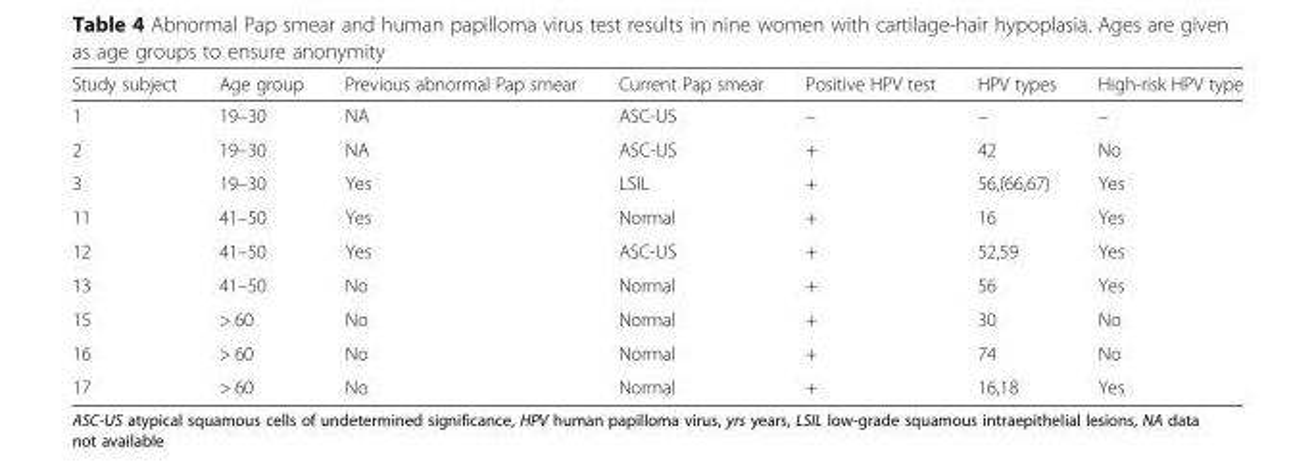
<table><thead><tr><td>Study subject</td><td>Age group</td><td>Previous abnormal Pap smear</td><td>Current Pap smear</td><td>Positive HPV test</td><td>HPV types</td><td>High-risk HPV type</td></tr></thead><tbody><tr><td>1</td><td>19–30</td><td>NA</td><td>ASC-US</td><td>–</td><td>–</td><td>–</td></tr><tr><td>2</td><td>19–30</td><td>NA</td><td>ASC-US</td><td>+</td><td>42</td><td>No</td></tr><tr><td>3</td><td>19–30</td><td>Yes</td><td>LSIL</td><td>+</td><td>56,(66,67)</td><td>Yes</td></tr><tr><td>11</td><td>41–50</td><td>Yes</td><td>Normal</td><td>+</td><td>16</td><td>Yes</td></tr><tr><td>12</td><td>41–50</td><td>Yes</td><td>ASC-US</td><td>+</td><td>52,59</td><td>Yes</td></tr><tr><td>13</td><td>41–50</td><td>No</td><td>Normal</td><td>+</td><td>56</td><td>Yes</td></tr><tr><td>15</td><td>&gt; 60</td><td>No</td><td>Normal</td><td>+</td><td>30</td><td>No</td></tr><tr><td>16</td><td>&gt; 60</td><td>No</td><td>Normal</td><td>+</td><td>74</td><td>No</td></tr><tr><td>17</td><td>&gt; 60</td><td>No</td><td>Normal</td><td>+</td><td>16,18</td><td>Yes</td></tr></tbody></table>